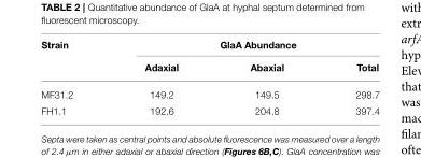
<table><thead><tr><td rowspan="2">Strain</td><td colspan="3">GlaA Abundance</td></tr><tr><td>Adaxial</td><td>Abaxial</td><td>Total</td></tr></thead><tbody><tr><td>MF31.2</td><td>149.2</td><td>149.5</td><td>298.7</td></tr><tr><td>FH1.1</td><td>192.6</td><td>204.8</td><td>397.4</td></tr></tbody></table>